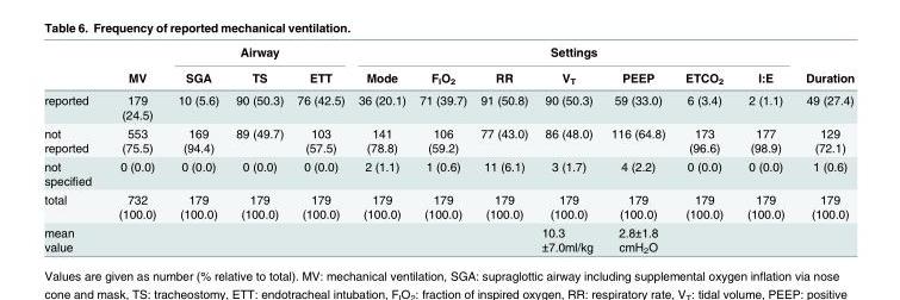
<table><thead><tr><td rowspan="2"></td><td rowspan="2">MV</td><td colspan="3">Airway</td><td colspan="7">Settings</td><td rowspan="2">Duration</td></tr><tr><td>SGA</td><td>TS</td><td>ETT</td><td>Mode</td><td>F<sub>I</sub>O<sub>2</sub></td><td>RR</td><td>V<sub>T</sub></td><td>PEEP</td><td>ETCO<sub>2</sub></td><td>I:E</td></tr></thead><tbody><tr><td>reported</td><td>179 (24.5)</td><td>10 (5.6)</td><td>90 (50.3)</td><td>76 (42.5)</td><td>36 (20.1)</td><td>71 (39.7)</td><td>91 (50.8)</td><td>90 (50.3)</td><td>59 (33.0)</td><td>6 (3.4)</td><td>2 (1.1)</td><td>49 (27.4)</td></tr><tr><td>not reported</td><td>553 (75.5)</td><td>169 (94.4)</td><td>89 (49.7)</td><td>103 (57.5)</td><td>141 (78.8)</td><td>106 (59.2)</td><td>77 (43.0)</td><td>86 (48.0)</td><td>116 (64.8)</td><td>173 (96.6)</td><td>177 (98.9)</td><td>129 (72.1)</td></tr><tr><td>not specified</td><td>0 (0.0)</td><td>0 (0.0)</td><td>0 (0.0)</td><td>0 (0.0)</td><td>2 (1.1)</td><td>1 (0.6)</td><td>11 (6.1)</td><td>3 (1.7)</td><td>4 (2.2)</td><td>0 (0.0)</td><td>0 (0.0)</td><td>1 (0.6)</td></tr><tr><td>total</td><td>732 (100.0)</td><td>179 (100.0)</td><td>179 (100.0)</td><td>179 (100.0)</td><td>179 (100.0)</td><td>179 (100.0)</td><td>179 (100.0)</td><td>179 (100.0)</td><td>179 (100.0)</td><td>179 (100.0)</td><td>179 (100.0)</td><td>179 (100.0)</td></tr><tr><td>mean value</td><td></td><td></td><td></td><td></td><td></td><td></td><td></td><td>10.3 ±7.0ml/kg</td><td>2.8±1.8 cmH<sub>2</sub>O</td><td></td><td></td><td></td></tr></tbody></table>